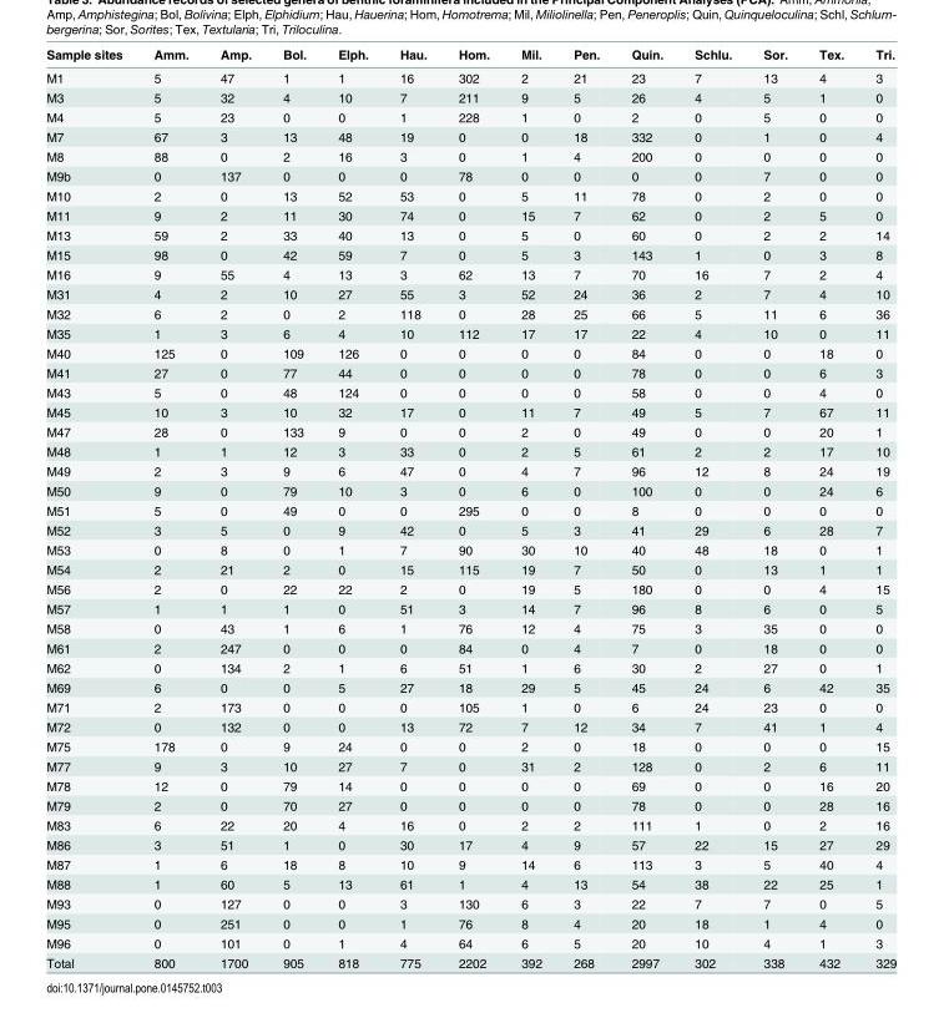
<table><thead><tr><td>Sample sites</td><td>Amm.</td><td>Amp.</td><td>Bol.</td><td>Elph.</td><td>Hau.</td><td>Hom.</td><td>Mil.</td><td>Pen.</td><td>Quin.</td><td>Schlu.</td><td>Sor.</td><td>Tex.</td><td>Tri.</td></tr></thead><tbody><tr><td>M1</td><td>5</td><td>47</td><td>1</td><td>1</td><td>16</td><td>302</td><td>2</td><td>21</td><td>23</td><td>7</td><td>13</td><td>4</td><td>3</td></tr><tr><td>M3</td><td>5</td><td>32</td><td>4</td><td>10</td><td>7</td><td>211</td><td>9</td><td>5</td><td>26</td><td>4</td><td>5</td><td>1</td><td>0</td></tr><tr><td>M4</td><td>5</td><td>23</td><td>0</td><td>0</td><td>1</td><td>228</td><td>1</td><td>0</td><td>2</td><td>0</td><td>5</td><td>0</td><td>0</td></tr><tr><td>M7</td><td>67</td><td>3</td><td>13</td><td>48</td><td>19</td><td>0</td><td>0</td><td>18</td><td>332</td><td>0</td><td>1</td><td>0</td><td>4</td></tr><tr><td>M8</td><td>88</td><td>0</td><td>2</td><td>16</td><td>3</td><td>0</td><td>1</td><td>4</td><td>200</td><td>0</td><td>0</td><td>0</td><td>0</td></tr><tr><td>M9b</td><td>0</td><td>137</td><td>0</td><td>0</td><td>0</td><td>78</td><td>0</td><td>0</td><td>0</td><td>0</td><td>7</td><td>0</td><td>0</td></tr><tr><td>M10</td><td>2</td><td>0</td><td>13</td><td>52</td><td>53</td><td>0</td><td>5</td><td>11</td><td>78</td><td>0</td><td>2</td><td>0</td><td>0</td></tr><tr><td>M11</td><td>9</td><td>2</td><td>11</td><td>30</td><td>74</td><td>0</td><td>15</td><td>7</td><td>62</td><td>0</td><td>2</td><td>5</td><td>0</td></tr><tr><td>M13</td><td>59</td><td>2</td><td>33</td><td>40</td><td>13</td><td>0</td><td>5</td><td>0</td><td>60</td><td>0</td><td>2</td><td>2</td><td>14</td></tr><tr><td>M15</td><td>98</td><td>0</td><td>42</td><td>59</td><td>7</td><td>0</td><td>5</td><td>3</td><td>143</td><td>1</td><td>0</td><td>3</td><td>8</td></tr><tr><td>M16</td><td>9</td><td>55</td><td>4</td><td>13</td><td>3</td><td>62</td><td>13</td><td>7</td><td>70</td><td>16</td><td>7</td><td>2</td><td>4</td></tr><tr><td>M31</td><td>4</td><td>2</td><td>10</td><td>27</td><td>55</td><td>3</td><td>52</td><td>24</td><td>36</td><td>2</td><td>7</td><td>4</td><td>10</td></tr><tr><td>M32</td><td>6</td><td>2</td><td>0</td><td>2</td><td>118</td><td>0</td><td>28</td><td>25</td><td>66</td><td>5</td><td>11</td><td>6</td><td>36</td></tr><tr><td>M35</td><td>1</td><td>3</td><td>6</td><td>4</td><td>10</td><td>112</td><td>17</td><td>17</td><td>22</td><td>4</td><td>10</td><td>0</td><td>11</td></tr><tr><td>M40</td><td>125</td><td>0</td><td>109</td><td>126</td><td>0</td><td>0</td><td>0</td><td>0</td><td>84</td><td>0</td><td>0</td><td>18</td><td>0</td></tr><tr><td>M41</td><td>27</td><td>0</td><td>77</td><td>44</td><td>0</td><td>0</td><td>0</td><td>0</td><td>78</td><td>0</td><td>0</td><td>6</td><td>3</td></tr><tr><td>M43</td><td>5</td><td>0</td><td>48</td><td>124</td><td>0</td><td>0</td><td>0</td><td>0</td><td>58</td><td>0</td><td>0</td><td>4</td><td>0</td></tr><tr><td>M45</td><td>10</td><td>3</td><td>10</td><td>32</td><td>17</td><td>0</td><td>11</td><td>7</td><td>49</td><td>5</td><td>7</td><td>67</td><td>11</td></tr><tr><td>M47</td><td>28</td><td>0</td><td>133</td><td>9</td><td>0</td><td>0</td><td>2</td><td>0</td><td>49</td><td>0</td><td>0</td><td>20</td><td>1</td></tr><tr><td>M48</td><td>1</td><td>1</td><td>12</td><td>3</td><td>33</td><td>0</td><td>2</td><td>5</td><td>61</td><td>2</td><td>2</td><td>17</td><td>10</td></tr><tr><td>M49</td><td>2</td><td>3</td><td>9</td><td>6</td><td>47</td><td>0</td><td>4</td><td>7</td><td>96</td><td>12</td><td>8</td><td>24</td><td>19</td></tr><tr><td>M50</td><td>9</td><td>0</td><td>79</td><td>10</td><td>3</td><td>0</td><td>6</td><td>0</td><td>100</td><td>0</td><td>0</td><td>24</td><td>6</td></tr><tr><td>M51</td><td>5</td><td>0</td><td>49</td><td>0</td><td>0</td><td>295</td><td>0</td><td>0</td><td>8</td><td>0</td><td>0</td><td>0</td><td>0</td></tr><tr><td>M52</td><td>3</td><td>5</td><td>0</td><td>9</td><td>42</td><td>0</td><td>5</td><td>3</td><td>41</td><td>29</td><td>6</td><td>28</td><td>7</td></tr><tr><td>M53</td><td>0</td><td>8</td><td>0</td><td>1</td><td>7</td><td>90</td><td>30</td><td>10</td><td>40</td><td>48</td><td>18</td><td>0</td><td>1</td></tr><tr><td>M54</td><td>2</td><td>21</td><td>2</td><td>0</td><td>15</td><td>115</td><td>19</td><td>7</td><td>50</td><td>0</td><td>13</td><td>1</td><td>1</td></tr><tr><td>M56</td><td>2</td><td>0</td><td>22</td><td>22</td><td>2</td><td>0</td><td>19</td><td>5</td><td>180</td><td>0</td><td>0</td><td>4</td><td>15</td></tr><tr><td>M57</td><td>1</td><td>1</td><td>1</td><td>0</td><td>51</td><td>3</td><td>14</td><td>7</td><td>96</td><td>8</td><td>6</td><td>0</td><td>5</td></tr><tr><td>M58</td><td>0</td><td>43</td><td>1</td><td>6</td><td>1</td><td>76</td><td>12</td><td>4</td><td>75</td><td>3</td><td>35</td><td>0</td><td>0</td></tr><tr><td>M61</td><td>2</td><td>247</td><td>0</td><td>0</td><td>0</td><td>84</td><td>0</td><td>4</td><td>7</td><td>0</td><td>18</td><td>0</td><td>0</td></tr><tr><td>M62</td><td>0</td><td>134</td><td>2</td><td>1</td><td>6</td><td>51</td><td>1</td><td>6</td><td>30</td><td>2</td><td>27</td><td>0</td><td>1</td></tr><tr><td>M69</td><td>6</td><td>0</td><td>0</td><td>5</td><td>27</td><td>18</td><td>29</td><td>5</td><td>45</td><td>24</td><td>6</td><td>42</td><td>35</td></tr><tr><td>M71</td><td>2</td><td>173</td><td>0</td><td>0</td><td>0</td><td>105</td><td>1</td><td>0</td><td>6</td><td>24</td><td>23</td><td>0</td><td>0</td></tr><tr><td>M72</td><td>0</td><td>132</td><td>0</td><td>0</td><td>13</td><td>72</td><td>7</td><td>12</td><td>34</td><td>7</td><td>41</td><td>1</td><td>4</td></tr><tr><td>M75</td><td>178</td><td>0</td><td>9</td><td>24</td><td>0</td><td>0</td><td>2</td><td>0</td><td>18</td><td>0</td><td>0</td><td>0</td><td>15</td></tr><tr><td>M77</td><td>9</td><td>3</td><td>10</td><td>27</td><td>7</td><td>0</td><td>31</td><td>2</td><td>128</td><td>0</td><td>2</td><td>6</td><td>11</td></tr><tr><td>M78</td><td>12</td><td>0</td><td>79</td><td>14</td><td>0</td><td>0</td><td>0</td><td>0</td><td>69</td><td>0</td><td>0</td><td>16</td><td>20</td></tr><tr><td>M79</td><td>2</td><td>0</td><td>70</td><td>27</td><td>0</td><td>0</td><td>0</td><td>0</td><td>78</td><td>0</td><td>0</td><td>28</td><td>16</td></tr><tr><td>M83</td><td>6</td><td>22</td><td>20</td><td>4</td><td>16</td><td>0</td><td>2</td><td>2</td><td>111</td><td>1</td><td>0</td><td>2</td><td>16</td></tr><tr><td>M86</td><td>3</td><td>51</td><td>1</td><td>0</td><td>30</td><td>17</td><td>4</td><td>9</td><td>57</td><td>22</td><td>15</td><td>27</td><td>29</td></tr><tr><td>M87</td><td>1</td><td>6</td><td>18</td><td>8</td><td>10</td><td>9</td><td>14</td><td>6</td><td>113</td><td>3</td><td>5</td><td>40</td><td>4</td></tr><tr><td>M88</td><td>1</td><td>60</td><td>5</td><td>13</td><td>61</td><td>1</td><td>4</td><td>13</td><td>54</td><td>38</td><td>22</td><td>25</td><td>1</td></tr><tr><td>M93</td><td>0</td><td>127</td><td>0</td><td>0</td><td>3</td><td>130</td><td>6</td><td>3</td><td>22</td><td>7</td><td>7</td><td>0</td><td>5</td></tr><tr><td>M95</td><td>0</td><td>251</td><td>0</td><td>0</td><td>1</td><td>76</td><td>8</td><td>4</td><td>20</td><td>18</td><td>1</td><td>4</td><td>0</td></tr><tr><td>M96</td><td>0</td><td>101</td><td>0</td><td>1</td><td>4</td><td>64</td><td>6</td><td>5</td><td>20</td><td>10</td><td>4</td><td>1</td><td>3</td></tr><tr><td>Total</td><td>800</td><td>1700</td><td>905</td><td>818</td><td>775</td><td>2202</td><td>392</td><td>268</td><td>2997</td><td>302</td><td>338</td><td>432</td><td>329</td></tr></tbody></table>